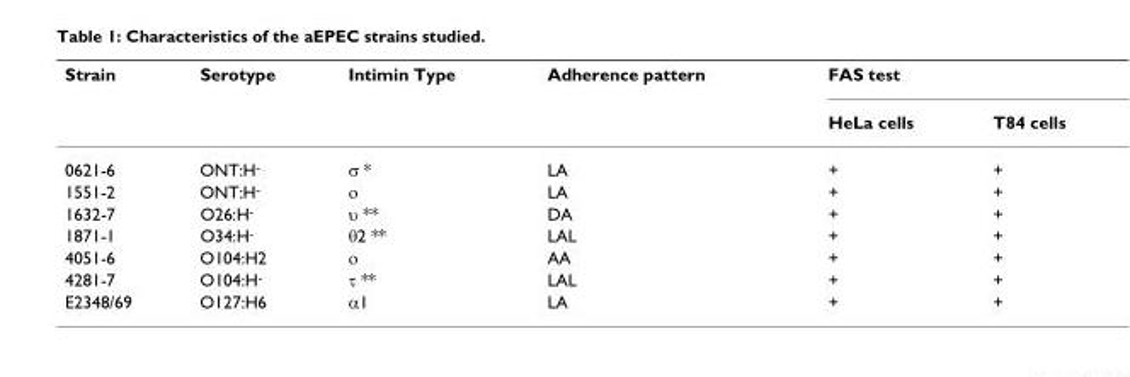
<table><thead><tr><td rowspan="2">Strain</td><td rowspan="2">Serotype</td><td rowspan="2">Intimin Type</td><td rowspan="2">Adherence pattern</td><td colspan="2">FAS test</td></tr><tr><td>HeLa cells</td><td>T84 cells</td></tr></thead><tbody><tr><td>0621-6</td><td>ONT:H<sup>-</sup></td><td>σ *</td><td>LA</td><td>+</td><td>+</td></tr><tr><td>1551-2</td><td>ONT:H<sup>-</sup></td><td>ο</td><td>LA</td><td>+</td><td>+</td></tr><tr><td>1632-7</td><td>O26:H<sup>-</sup></td><td>υ **</td><td>DA</td><td>+</td><td>+</td></tr><tr><td>1871-1</td><td>O34:H<sup>-</sup></td><td>θ2 **</td><td>LAL</td><td>+</td><td>+</td></tr><tr><td>4051-6</td><td>O104:H2</td><td>ο</td><td>AA</td><td>+</td><td>+</td></tr><tr><td>4281-7</td><td>O104:H<sup>-</sup></td><td>τ **</td><td>LAL</td><td>+</td><td>+</td></tr><tr><td>E2348/69</td><td>O127:H6</td><td>α1</td><td>LA</td><td>+</td><td>+</td></tr></tbody></table>